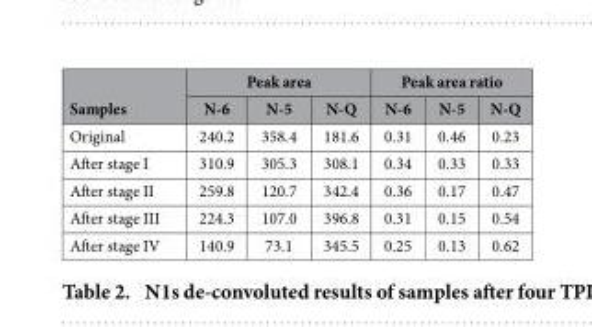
<table><thead><tr><td rowspan="2">Samples</td><td colspan="3">Peak area</td><td colspan="3">Peak area ratio</td></tr><tr><td>N-6</td><td>N-5</td><td>N-Q</td><td>N-6</td><td>N-5</td><td>N-Q</td></tr></thead><tbody><tr><td>Original</td><td>240.2</td><td>358.4</td><td>181.6</td><td>0.31</td><td>0.46</td><td>0.23</td></tr><tr><td>After stage I</td><td>310.9</td><td>305.3</td><td>308.1</td><td>0.34</td><td>0.33</td><td>0.33</td></tr><tr><td>After stage II</td><td>259.8</td><td>120.7</td><td>342.4</td><td>0.36</td><td>0.17</td><td>0.47</td></tr><tr><td>After stage III</td><td>224.3</td><td>107.0</td><td>396.8</td><td>0.31</td><td>0.15</td><td>0.54</td></tr><tr><td>After stage IV</td><td>140.9</td><td>73.1</td><td>345.5</td><td>0.25</td><td>0.13</td><td>0.62</td></tr></tbody></table>